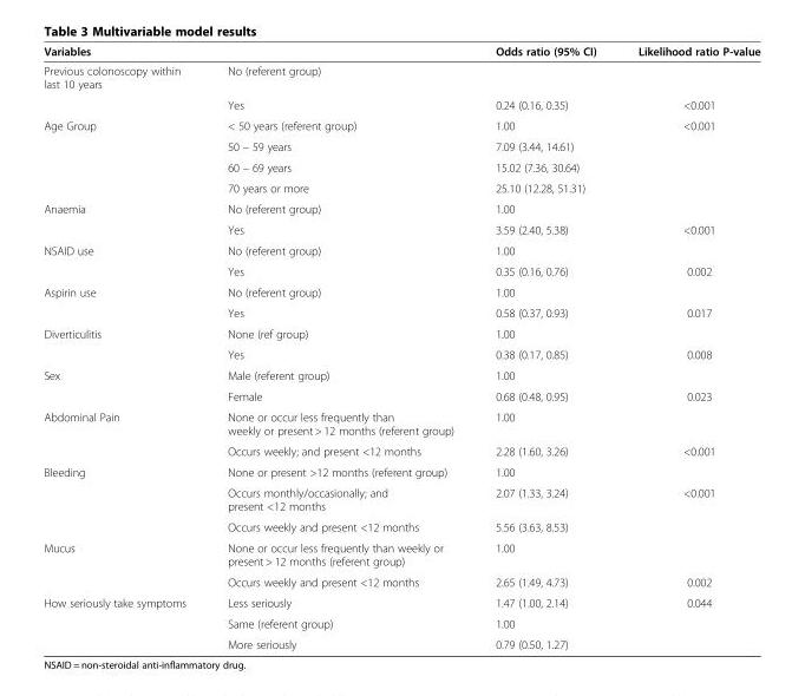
<table><thead><tr><td>Variables</td><td></td><td>Odds ratio (95% CI)</td><td>Likelihood ratio P-value</td></tr></thead><tbody><tr><td rowspan="2">Previous colonoscopy within last 10 years</td><td>No (referent group)</td><td></td><td></td></tr><tr><td>Yes</td><td>0.24 (0.16, 0.35)</td><td>&lt;0.001</td></tr><tr><td rowspan="4">Age Group</td><td>&lt; 50 years (referent group)</td><td>1.00</td><td rowspan="4">&lt;0.001</td></tr><tr><td>50 – 59 years</td><td>7.09 (3.44, 14.61)</td></tr><tr><td>60 – 69 years</td><td>15.02 (7.36, 30.64)</td></tr><tr><td>70 years or more</td><td>25.10 (12.28, 51.31)</td></tr><tr><td rowspan="2">Anaemia</td><td>No (referent group)</td><td>1.00</td><td></td></tr><tr><td>Yes</td><td>3.59 (2.40, 5.38)</td><td>&lt;0.001</td></tr><tr><td rowspan="2">NSAID use</td><td>No (referent group)</td><td>1.00</td><td></td></tr><tr><td>Yes</td><td>0.35 (0.16, 0.76)</td><td>0.002</td></tr><tr><td rowspan="2">Aspirin use</td><td>No (referent group)</td><td>1.00</td><td></td></tr><tr><td>Yes</td><td>0.58 (0.37, 0.93)</td><td>0.017</td></tr><tr><td rowspan="2">Diverticulitis</td><td>None (ref group)</td><td>1.00</td><td></td></tr><tr><td>Yes</td><td>0.38 (0.17, 0.85)</td><td>0.008</td></tr><tr><td rowspan="2">Sex</td><td>Male (referent group)</td><td>1.00</td><td></td></tr><tr><td>Female</td><td>0.68 (0.48, 0.95)</td><td>0.023</td></tr><tr><td rowspan="2">Abdominal Pain</td><td>None or occur less frequently than weekly or present &gt; 12 months (referent group)</td><td>1.00</td><td></td></tr><tr><td>Occurs weekly; and present &lt;12 months</td><td>2.28 (1.60, 3.26)</td><td>&lt;0.001</td></tr><tr><td rowspan="3">Bleeding</td><td>None or present &gt;12 months (referent group)</td><td>1.00</td><td></td></tr><tr><td>Occurs monthly/occasionally; and present &lt;12 months</td><td>2.07 (1.33, 3.24)</td><td>&lt;0.001</td></tr><tr><td>Occurs weekly and present &lt;12 months</td><td>5.56 (3.63, 8.53)</td><td></td></tr><tr><td rowspan="2">Mucus</td><td>None or occur less frequently than weekly or present &gt; 12 months (referent group)</td><td>1.00</td><td></td></tr><tr><td>Occurs weekly and present &lt;12 months</td><td>2.65 (1.49, 4.73)</td><td>0.002</td></tr><tr><td rowspan="3">How seriously take symptoms</td><td>Less seriously</td><td>1.47 (1.00, 2.14)</td><td rowspan="3">0.044</td></tr><tr><td>Same (referent group)</td><td>1.00</td></tr><tr><td>More seriously</td><td>0.79 (0.50, 1.27)</td></tr></tbody></table>